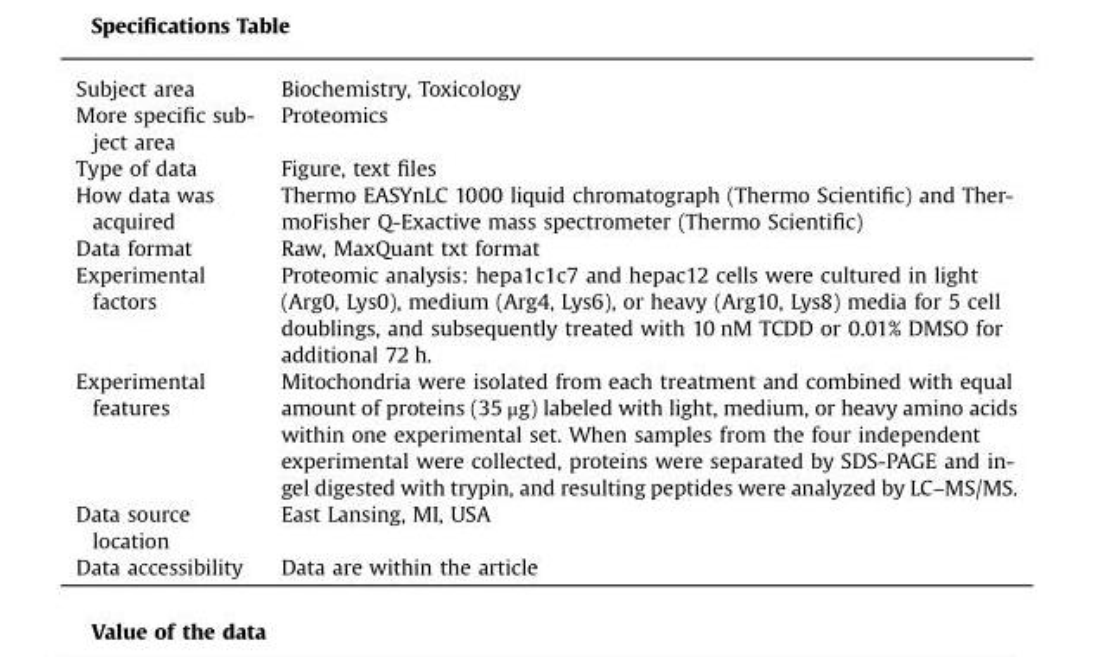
<table><tbody><tr><td>Subject area</td><td>Biochemistry, Toxicology</td></tr><tr><td>More specific sub- ject area</td><td>Proteomics</td></tr><tr><td>Type of data</td><td>Figure, text files</td></tr><tr><td>How data was acquired</td><td>Thermo EASYnLC 1000 liquid chromatograph (Thermo Scientific) and Ther- moFisher Q-Exactive mass spectrometer (Thermo Scientific)</td></tr><tr><td>Data format</td><td>Raw, MaxQuant txt format</td></tr><tr><td>Experimental factors</td><td>Proteomic analysis: hepa1c1c7 and hepac12 cells were cultured in light (Arg0, Lys0), medium (Arg4, Lys6), or heavy (Arg10, Lys8) media for 5 cell doublings, and subsequently treated with 10 nM TCDD or 0.01% DMSO for additional 72 h.</td></tr><tr><td>Experimental features</td><td>Mitochondria were isolated from each treatment and combined with equal amount of proteins (35 μg) labeled with light, medium, or heavy amino acids within one experimental set. When samples from the four independent experimental were collected, proteins were separated by SDS-PAGE and in- gel digested with trypin, and resulting peptides were analyzed by LC–MS/MS.</td></tr><tr><td>Data source location</td><td>East Lansing, MI, USA</td></tr><tr><td>Data accessibility</td><td>Data are within the article</td></tr></tbody></table>